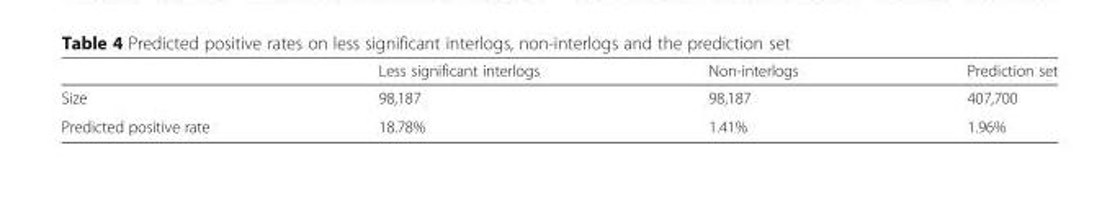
<table><thead><tr><td></td><td>Less significant interlogs</td><td>Non-interlogs</td><td>Prediction set</td></tr></thead><tbody><tr><td>Size</td><td>98,187</td><td>98,187</td><td>407,700</td></tr><tr><td>Predicted positive rate</td><td>18.78%</td><td>1.41%</td><td>1.96%</td></tr></tbody></table>